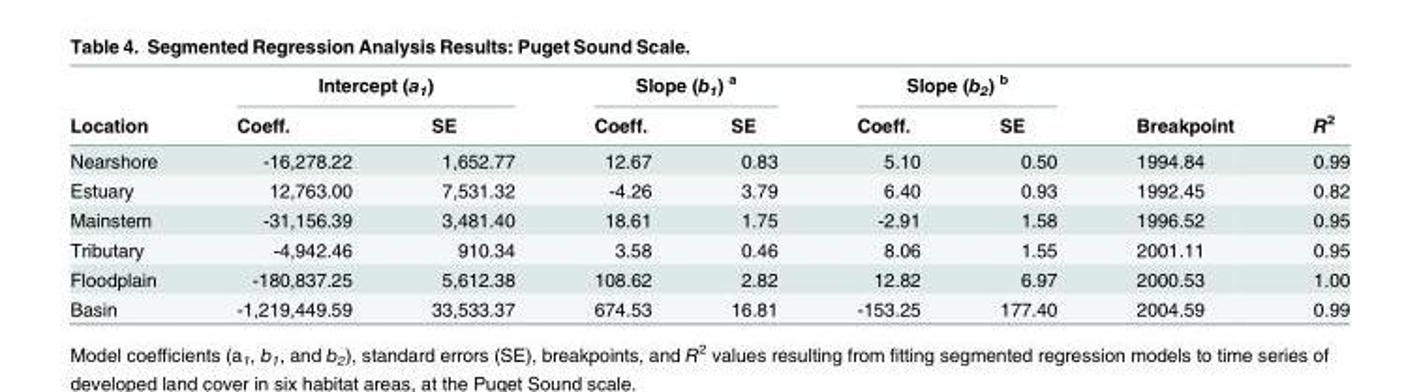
<table><thead><tr><td rowspan="2">Location</td><td colspan="2">Intercept (a<sub>1</sub>)</td><td colspan="2">Slope (b<sub>1</sub>) <sup>a</sup></td><td colspan="2">Slope (b<sub>2</sub>) <sup>b</sup></td><td rowspan="2">Breakpoint</td><td rowspan="2">R<sup>2</sup></td></tr><tr><td>Coeff.</td><td>SE</td><td>Coeff.</td><td>SE</td><td>Coeff.</td><td>SE</td></tr></thead><tbody><tr><td>Nearshore</td><td>-16,278.22</td><td>1,652.77</td><td>12.67</td><td>0.83</td><td>5.10</td><td>0.50</td><td>1994.84</td><td>0.99</td></tr><tr><td>Estuary</td><td>12,763.00</td><td>7,531.32</td><td>-4.26</td><td>3.79</td><td>6.40</td><td>0.93</td><td>1992.45</td><td>0.82</td></tr><tr><td>Mainstem</td><td>-31,156.39</td><td>3,481.40</td><td>18.61</td><td>1.75</td><td>-2.91</td><td>1.58</td><td>1996.52</td><td>0.95</td></tr><tr><td>Tributary</td><td>-4,942.46</td><td>910.34</td><td>3.58</td><td>0.46</td><td>8.06</td><td>1.55</td><td>2001.11</td><td>0.95</td></tr><tr><td>Floodplain</td><td>-180,837.25</td><td>5,612.38</td><td>108.62</td><td>2.82</td><td>12.82</td><td>6.97</td><td>2000.53</td><td>1.00</td></tr><tr><td>Basin</td><td>-1,219,449.59</td><td>33,533.37</td><td>674.53</td><td>16.81</td><td>-153.25</td><td>177.40</td><td>2004.59</td><td>0.99</td></tr></tbody></table>